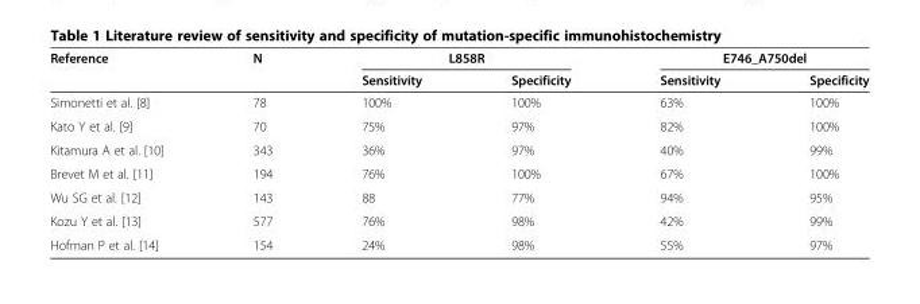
<table><thead><tr><td rowspan="2">Reference</td><td rowspan="2">N</td><td colspan="2">L858R</td><td colspan="2">E746_A750del</td></tr><tr><td>Sensitivity</td><td>Specificity</td><td>Sensitivity</td><td>Specificity</td></tr></thead><tbody><tr><td>Simonetti et al. [8]</td><td>78</td><td>100%</td><td>100%</td><td>63%</td><td>100%</td></tr><tr><td>Kato Y et al. [9]</td><td>70</td><td>75%</td><td>97%</td><td>82%</td><td>100%</td></tr><tr><td>Kitamura A et al. [10]</td><td>343</td><td>36%</td><td>97%</td><td>40%</td><td>99%</td></tr><tr><td>Brevet M et al. [11]</td><td>194</td><td>76%</td><td>100%</td><td>67%</td><td>100%</td></tr><tr><td>Wu SG et al. [12]</td><td>143</td><td>88</td><td>77%</td><td>94%</td><td>95%</td></tr><tr><td>Kozu Y et al. [13]</td><td>577</td><td>76%</td><td>98%</td><td>42%</td><td>99%</td></tr><tr><td>Hofman P et al. [14]</td><td>154</td><td>24%</td><td>98%</td><td>55%</td><td>97%</td></tr></tbody></table>